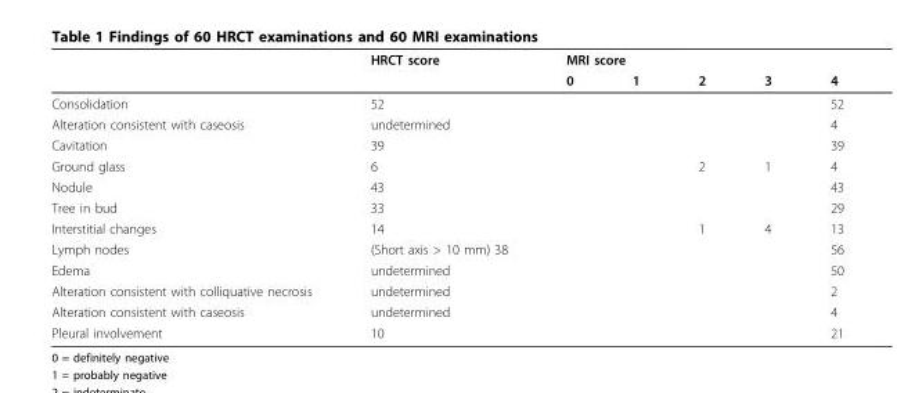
<table><thead><tr><td rowspan="2"></td><td rowspan="2">HRCT score</td><td colspan="5">MRI score</td></tr><tr><td>0</td><td>1</td><td>2</td><td>3</td><td>4</td></tr></thead><tbody><tr><td>Consolidation</td><td>52</td><td></td><td></td><td></td><td></td><td>52</td></tr><tr><td>Alteration consistent with caseosis</td><td>undetermined</td><td></td><td></td><td></td><td></td><td>4</td></tr><tr><td>Cavitation</td><td>39</td><td></td><td></td><td></td><td></td><td>39</td></tr><tr><td>Ground glass</td><td>6</td><td></td><td></td><td>2</td><td>1</td><td>4</td></tr><tr><td>Nodule</td><td>43</td><td></td><td></td><td></td><td></td><td>43</td></tr><tr><td>Tree in bud</td><td>33</td><td></td><td></td><td></td><td></td><td>29</td></tr><tr><td>Interstitial changes</td><td>14</td><td></td><td></td><td>1</td><td>4</td><td>13</td></tr><tr><td>Lymph nodes</td><td>(Short axis &gt; 10 mm) 38</td><td></td><td></td><td></td><td></td><td>56</td></tr><tr><td>Edema</td><td>undetermined</td><td></td><td></td><td></td><td></td><td>50</td></tr><tr><td>Alteration consistent with colliquative necrosis</td><td>undetermined</td><td></td><td></td><td></td><td></td><td>2</td></tr><tr><td>Alteration consistent with caseosis</td><td>undetermined</td><td></td><td></td><td></td><td></td><td>4</td></tr><tr><td>Pleural involvement</td><td>10</td><td></td><td></td><td></td><td></td><td>21</td></tr></tbody></table>